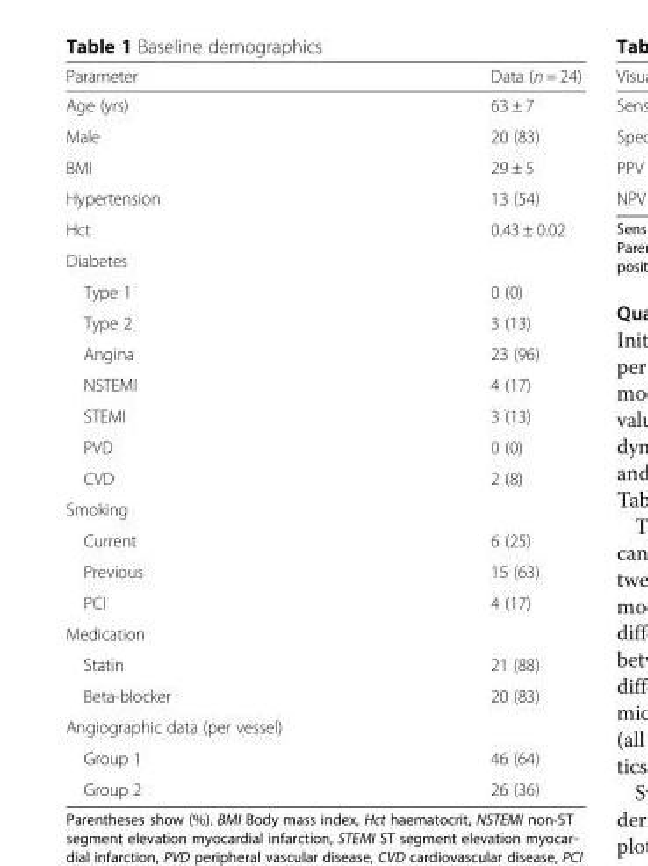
<table><thead><tr><td>Parameter</td><td>Data (n = 24)</td></tr></thead><tbody><tr><td>Age (yrs)</td><td>63 ± 7</td></tr><tr><td>Male</td><td>20 (83)</td></tr><tr><td>BMI</td><td>29 ± 5</td></tr><tr><td>Hypertension</td><td>13 (54)</td></tr><tr><td>Hct</td><td>0.43 ± 0.02</td></tr><tr><td colspan="2">Diabetes</td></tr><tr><td>Type 1</td><td>0 (0)</td></tr><tr><td>Type 2</td><td>3 (13)</td></tr><tr><td>Angina</td><td>23 (96)</td></tr><tr><td>NSTEMI</td><td>4 (17)</td></tr><tr><td>STEMI</td><td>3 (13)</td></tr><tr><td>PVD</td><td>0 (0)</td></tr><tr><td>CVD</td><td>2 (8)</td></tr><tr><td colspan="2">Smoking</td></tr><tr><td>Current</td><td>6 (25)</td></tr><tr><td>Previous</td><td>15 (63)</td></tr><tr><td>PCI</td><td>4 (17)</td></tr><tr><td colspan="2">Medication</td></tr><tr><td>Statin</td><td>21 (88)</td></tr><tr><td>Beta-blocker</td><td>20 (83)</td></tr><tr><td colspan="2">Angiographic data (per vessel)</td></tr><tr><td>Group 1</td><td>46 (64)</td></tr><tr><td>Group 2</td><td>26 (36)</td></tr></tbody></table>